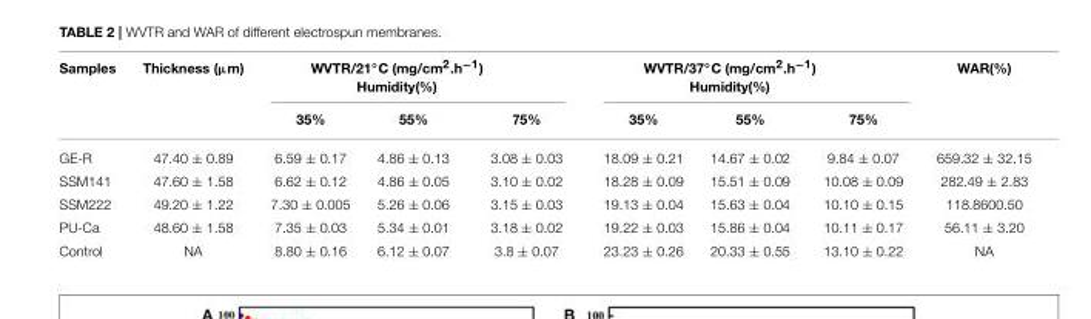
<table><thead><tr><td rowspan="2">Samples</td><td rowspan="2">Thickness (µm)</td><td colspan="3">WVTR/21◦C (mg/cm2.h−1) Humidity(%)</td><td colspan="3">WVTR/37◦C (mg/cm2.h−1) Humidity(%)</td><td rowspan="2">WAR(%)</td></tr><tr><td>35%</td><td>55%</td><td>75%</td><td>35%</td><td>55%</td><td>75%</td></tr></thead><tbody><tr><td>GE-R</td><td>47.40 ± 0.89</td><td>6.59 ± 0.17</td><td>4.86 ± 0.13</td><td>3.08 ± 0.03</td><td>18.09 ± 0.21</td><td>14.67 ± 0.02</td><td>9.84 ± 0.07</td><td>659.32 ± 32.15</td></tr><tr><td>SSM141</td><td>47.60 ± 1.58</td><td>6.62 ± 0.12</td><td>4.86 ± 0.05</td><td>3.10 ± 0.02</td><td>18.28 ± 0.09</td><td>15.51 ± 0.09</td><td>10.08 ± 0.09</td><td>282.49 ± 2.83</td></tr><tr><td>SSM222</td><td>49.20 ± 1.22</td><td>7.30 ± 0.005</td><td>5.26 ± 0.06</td><td>3.15 ± 0.03</td><td>19.13 ± 0.04</td><td>15.63 ± 0.04</td><td>10.10 ± 0.15</td><td>118.8600.50</td></tr><tr><td>PU-Ca</td><td>48.60 ± 1.58</td><td>7.35 ± 0.03</td><td>5.34 ± 0.01</td><td>3.18 ± 0.02</td><td>19.22 ± 0.03</td><td>15.86 ± 0.04</td><td>10.11 ± 0.17</td><td>56.11 ± 3.20</td></tr><tr><td>Control</td><td>NA</td><td>8.80 ± 0.16</td><td>6.12 ± 0.07</td><td>3.8 ± 0.07</td><td>23.23 ± 0.26</td><td>20.33 ± 0.55</td><td>13.10 ± 0.22</td><td>NA</td></tr></tbody></table>